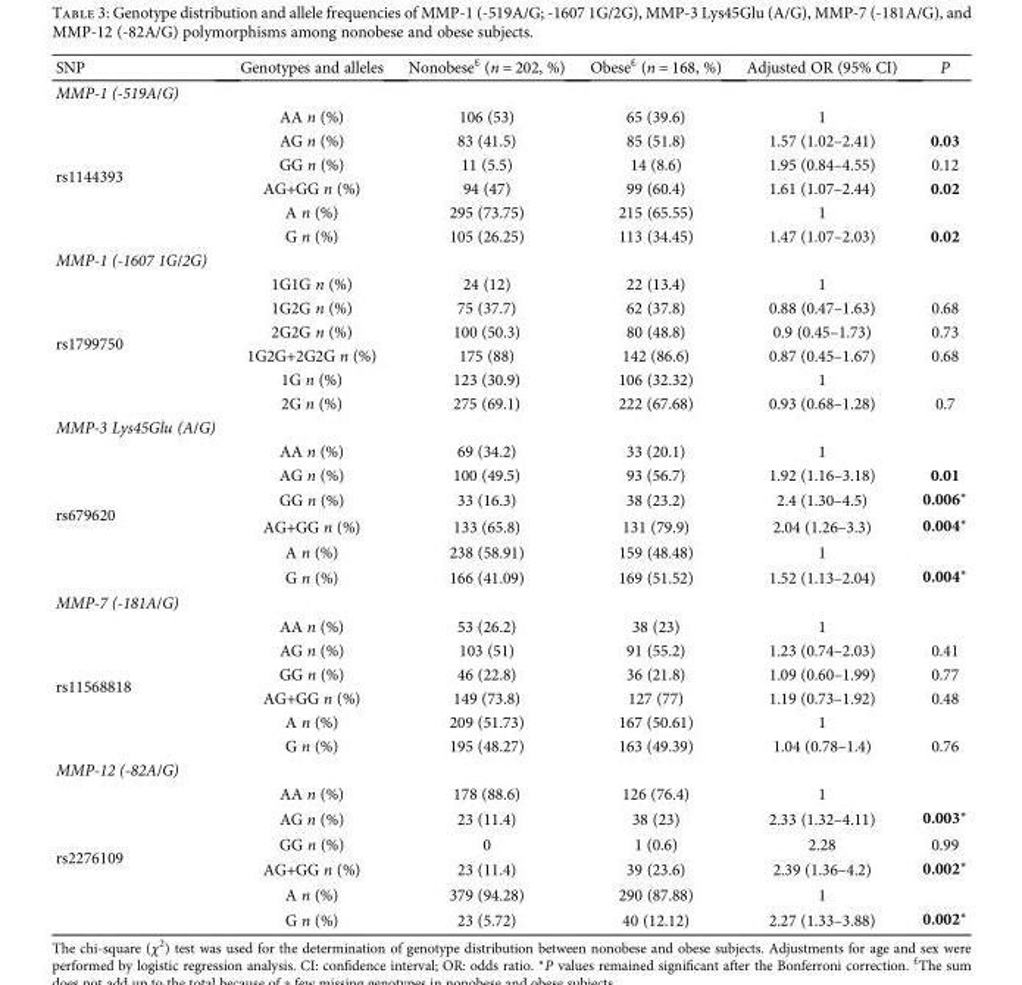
<table><thead><tr><td>SNP</td><td>Genotypes and alleles</td><td>Nonobese<sup>£</sup> (n = 202, %)</td><td>Obese<sup>£</sup> (n = 168, %)</td><td>Adjusted OR (95% CI)</td><td>P</td></tr></thead><tbody><tr><td colspan="6">MMP-1 (-519A/G)</td></tr><tr><td rowspan="6">rs1144393</td><td>AA n (%)</td><td>106 (53)</td><td>65 (39.6)</td><td>1</td><td></td></tr><tr><td>AG n (%)</td><td>83 (41.5)</td><td>85 (51.8)</td><td>1.57 (1.02–2.41)</td><td>0.03</td></tr><tr><td>GG n (%)</td><td>11 (5.5)</td><td>14 (8.6)</td><td>1.95 (0.84–4.55)</td><td>0.12</td></tr><tr><td>AG+GG n (%)</td><td>94 (47)</td><td>99 (60.4)</td><td>1.61 (1.07–2.44)</td><td>0.02</td></tr><tr><td>A n (%)</td><td>295 (73.75)</td><td>215 (65.55)</td><td>1</td><td></td></tr><tr><td>G n (%)</td><td>105 (26.25)</td><td>113 (34.45)</td><td>1.47 (1.07–2.03)</td><td>0.02</td></tr><tr><td colspan="6">MMP-1 (-1607 1G/2G)</td></tr><tr><td rowspan="6">rs1799750</td><td>1G1G n (%)</td><td>24 (12)</td><td>22 (13.4)</td><td>1</td><td></td></tr><tr><td>1G2G n (%)</td><td>75 (37.7)</td><td>62 (37.8)</td><td>0.88 (0.47–1.63)</td><td>0.68</td></tr><tr><td>2G2G n (%)</td><td>100 (50.3)</td><td>80 (48.8)</td><td>0.9 (0.45–1.73)</td><td>0.73</td></tr><tr><td>1G2G+2G2G n (%)</td><td>175 (88)</td><td>142 (86.6)</td><td>0.87 (0.45–1.67)</td><td>0.68</td></tr><tr><td>1G n (%)</td><td>123 (30.9)</td><td>106 (32.32)</td><td>1</td><td></td></tr><tr><td>2G n (%)</td><td>275 (69.1)</td><td>222 (67.68)</td><td>0.93 (0.68–1.28)</td><td>0.7</td></tr><tr><td colspan="6">MMP-3 Lys45Glu (A/G)</td></tr><tr><td rowspan="6">rs679620</td><td>AA n (%)</td><td>69 (34.2)</td><td>33 (20.1)</td><td>1</td><td></td></tr><tr><td>AG n (%)</td><td>100 (49.5)</td><td>93 (56.7)</td><td>1.92 (1.16–3.18)</td><td>0.01</td></tr><tr><td>GG n (%)</td><td>33 (16.3)</td><td>38 (23.2)</td><td>2.4 (1.30–4.5)</td><td>0.006∗</td></tr><tr><td>AG+GG n (%)</td><td>133 (65.8)</td><td>131 (79.9)</td><td>2.04 (1.26–3.3)</td><td>0.004∗</td></tr><tr><td>A n (%)</td><td>238 (58.91)</td><td>159 (48.48)</td><td>1</td><td></td></tr><tr><td>G n (%)</td><td>166 (41.09)</td><td>169 (51.52)</td><td>1.52 (1.13–2.04)</td><td>0.004∗</td></tr><tr><td colspan="6">MMP-7 (-181A/G)</td></tr><tr><td rowspan="6">rs11568818</td><td>AA n (%)</td><td>53 (26.2)</td><td>38 (23)</td><td>1</td><td></td></tr><tr><td>AG n (%)</td><td>103 (51)</td><td>91 (55.2)</td><td>1.23 (0.74–2.03)</td><td>0.41</td></tr><tr><td>GG n (%)</td><td>46 (22.8)</td><td>36 (21.8)</td><td>1.09 (0.60–1.99)</td><td>0.77</td></tr><tr><td>AG+GG n (%)</td><td>149 (73.8)</td><td>127 (77)</td><td>1.19 (0.73–1.92)</td><td>0.48</td></tr><tr><td>A n (%)</td><td>209 (51.73)</td><td>167 (50.61)</td><td>1</td><td></td></tr><tr><td>G n (%)</td><td>195 (48.27)</td><td>163 (49.39)</td><td>1.04 (0.78–1.4)</td><td>0.76</td></tr><tr><td colspan="6">MMP-12 (-82A/G)</td></tr><tr><td rowspan="6">rs2276109</td><td>AA n (%)</td><td>178 (88.6)</td><td>126 (76.4)</td><td>1</td><td></td></tr><tr><td>AG n (%)</td><td>23 (11.4)</td><td>38 (23)</td><td>2.33 (1.32–4.11)</td><td>0.003∗</td></tr><tr><td>GG n (%)</td><td>0</td><td>1 (0.6)</td><td>2.28</td><td>0.99</td></tr><tr><td>AG+GG n (%)</td><td>23 (11.4)</td><td>39 (23.6)</td><td>2.39 (1.36–4.2)</td><td>0.002∗</td></tr><tr><td>A n (%)</td><td>379 (94.28)</td><td>290 (87.88)</td><td>1</td><td></td></tr><tr><td>G n (%)</td><td>23 (5.72)</td><td>40 (12.12)</td><td>2.27 (1.33–3.88)</td><td>0.002∗</td></tr></tbody></table>